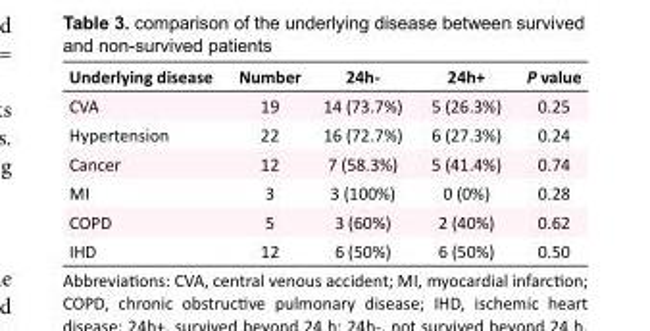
<table><tbody><tr><td>Underlying disease</td><td>Number</td><td>24h-</td><td>24h+</td><td>P value</td></tr><tr><td>CVA</td><td>19</td><td>14 (73.7%)</td><td>5 (26.3%)</td><td>0.25</td></tr><tr><td>Hypertension</td><td>22</td><td>16 (72.7%)</td><td>6 (27.3%)</td><td>0.24</td></tr><tr><td>Cancer</td><td>12</td><td>7 (58.3%)</td><td>5 (41.4%)</td><td>0.74</td></tr><tr><td>MI</td><td>3</td><td>3 (100%)</td><td>0 (0%)</td><td>0.28</td></tr><tr><td>COPD</td><td>5</td><td>3 (60%)</td><td>2 (40%)</td><td>0.62</td></tr><tr><td>IHD</td><td>12</td><td>6 (50%)</td><td>6 (50%)</td><td>0.50</td></tr></tbody></table>